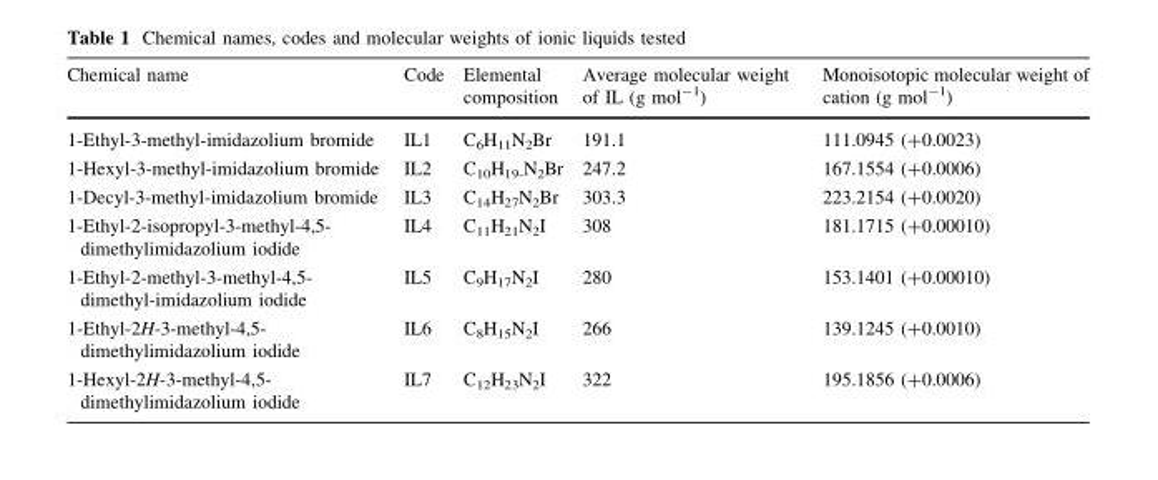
<table><thead><tr><td>Chemical name</td><td>Code</td><td>Elemental composition</td><td>Average molecular weight of IL (g mol<sup>-1</sup>)</td><td>Monoisotopic molecular weight of cation (g mol<sup>-1</sup>)</td></tr></thead><tbody><tr><td>1-Ethyl-3-methyl-imidazolium bromide</td><td>IL1</td><td>C<sub>6</sub>H<sub>11</sub>N<sub>2</sub>Br</td><td>191.1</td><td>111.0945 (+0.0023)</td></tr><tr><td>1-Hexyl-3-methyl-imidazolium bromide</td><td>IL2</td><td>C<sub>10</sub>H<sub>19-</sub>N<sub>2</sub>Br</td><td>247.2</td><td>167.1554 (+0.0006)</td></tr><tr><td>1-Decyl-3-methyl-imidazolium bromide</td><td>IL3</td><td>C<sub>14</sub>H<sub>27</sub>N<sub>2</sub>Br</td><td>303.3</td><td>223.2154 (+0.0020)</td></tr><tr><td>1-Ethyl-2-isopropyl-3-methyl-4,5- dimethylimidazolium iodide</td><td>IL4</td><td>C<sub>11</sub>H<sub>21</sub>N<sub>2</sub>I</td><td>308</td><td>181.1715 (+0.00010)</td></tr><tr><td>1-Ethyl-2-methyl-3-methyl-4,5- dimethyl-imidazolium iodide</td><td>IL5</td><td>C<sub>9</sub>H<sub>17</sub>N<sub>2</sub>I</td><td>280</td><td>153.1401 (+0.00010)</td></tr><tr><td>1-Ethyl-2H-3-methyl-4,5- dimethylimidazolium iodide</td><td>IL6</td><td>C<sub>8</sub>H<sub>15</sub>N<sub>2</sub>I</td><td>266</td><td>139.1245 (+0.0010)</td></tr><tr><td>1-Hexyl-2H-3-methyl-4,5- dimethylimidazolium iodide</td><td>IL7</td><td>C<sub>12</sub>H<sub>23</sub>N<sub>2</sub>I</td><td>322</td><td>195.1856 (+0.0006)</td></tr></tbody></table>